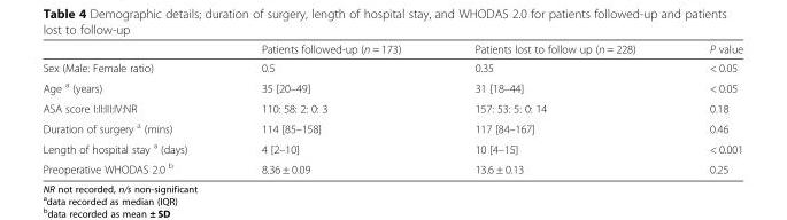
<table><thead><tr><td></td><td>Patients followed-up (n = 173)</td><td>Patients lost to follow up (n = 228)</td><td>P value</td></tr></thead><tbody><tr><td>Sex (Male: Female ratio)</td><td>0.5</td><td>0.35</td><td>&lt; 0.05</td></tr><tr><td>Age <sup>a</sup> (years)</td><td>35 [20–49]</td><td>31 [18–44]</td><td>&lt; 0.05</td></tr><tr><td>ASA score I:II:III:IV:NR</td><td>110: 58: 2: 0: 3</td><td>157: 53: 5: 0: 14</td><td>0.18</td></tr><tr><td>Duration of surgery <sup>a</sup> (mins)</td><td>114 [85–158]</td><td>117 [84–167]</td><td>0.46</td></tr><tr><td>Length of hospital stay <sup>a</sup> (days)</td><td>4 [2–10]</td><td>10 [4–15]</td><td>&lt; 0.001</td></tr><tr><td>Preoperative WHODAS 2.0 <sup>b</sup></td><td>8.36 ± 0.09</td><td>13.6 ± 0.13</td><td>0.25</td></tr></tbody></table>